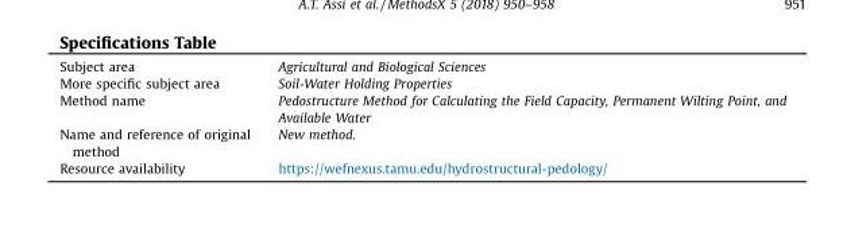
<table><tbody><tr><td>Subject area</td><td>Agricultural and Biological Sciences</td></tr><tr><td>More specific subject area</td><td>Soil-Water Holding Properties</td></tr><tr><td>Method name</td><td>Pedostructure Method for Calculating the Field Capacity, Permanent Wilting Point, and Available Water</td></tr><tr><td>Name and reference of original method</td><td>New method.</td></tr><tr><td>Resource availability</td><td>https://wefnexus.tamu.edu/hydrostructural-pedology/</td></tr></tbody></table>